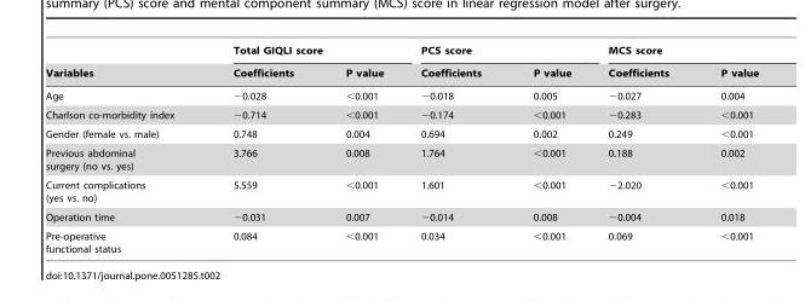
<table><thead><tr><td rowspan="2">Variables</td><td colspan="2">Total GIQLI score</td><td colspan="2">PCS score</td><td colspan="2">MCS score</td></tr><tr><td>Coefficients</td><td>P value</td><td>Coefficients</td><td>P value</td><td>Coefficients</td><td>P value</td></tr></thead><tbody><tr><td>Age</td><td>−0.028</td><td>&lt;0.001</td><td>−0.018</td><td>0.005</td><td>−0.027</td><td>0.004</td></tr><tr><td>Charlson co-morbidity index</td><td>−0.714</td><td>&lt;0.001</td><td>−0.174</td><td>&lt;0.001</td><td>−0.283</td><td>&lt;0.001</td></tr><tr><td>Gender (female vs. male)</td><td>0.748</td><td>0.004</td><td>0.694</td><td>0.002</td><td>0.249</td><td>&lt;0.001</td></tr><tr><td>Previous abdominal surgery (no vs. yes)</td><td>3.766</td><td>0.008</td><td>1.764</td><td>&lt;0.001</td><td>0.188</td><td>0.002</td></tr><tr><td>Current complications (yes vs. no)</td><td>5.559</td><td>&lt;0.001</td><td>1.601</td><td>&lt;0.001</td><td>−2.020</td><td>&lt;0.001</td></tr><tr><td>Operation time</td><td>−0.031</td><td>0.007</td><td>−0.014</td><td>0.008</td><td>−0.004</td><td>0.018</td></tr><tr><td>Pre-operative functional status</td><td>0.084</td><td>&lt;0.001</td><td>0.034</td><td>&lt;0.001</td><td>0.069</td><td>&lt;0.001</td></tr></tbody></table>